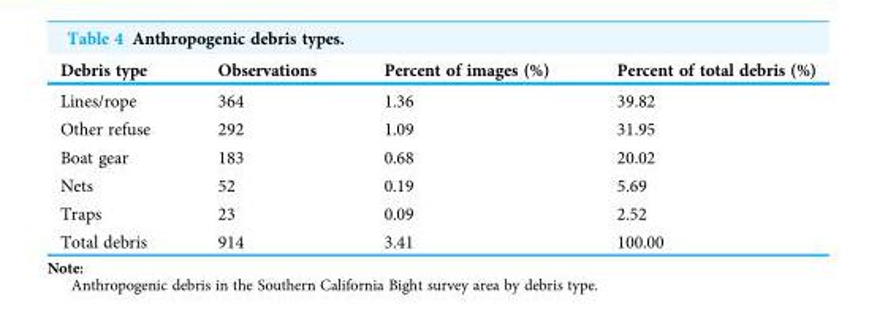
<table><thead><tr><td>Debris type</td><td>Observations</td><td>Percent of images (%)</td><td>Percent of total debris (%)</td></tr></thead><tbody><tr><td>Lines/rope</td><td>364</td><td>1.36</td><td>39.82</td></tr><tr><td>Other refuse</td><td>292</td><td>1.09</td><td>31.95</td></tr><tr><td>Boat gear</td><td>183</td><td>0.68</td><td>20.02</td></tr><tr><td>Nets</td><td>52</td><td>0.19</td><td>5.69</td></tr><tr><td>Traps</td><td>23</td><td>0.09</td><td>2.52</td></tr><tr><td>Total debris</td><td>914</td><td>3.41</td><td>100.00</td></tr></tbody></table>